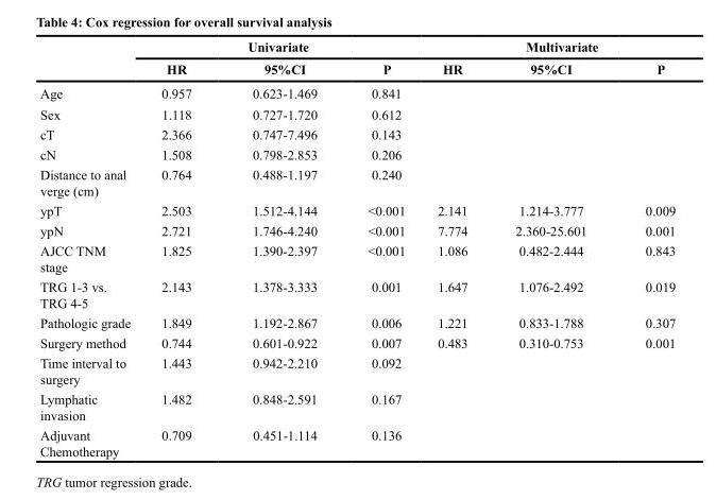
<table><thead><tr><td rowspan="2"></td><td colspan="3">Univariate</td><td colspan="3">Multivariate</td></tr><tr><td>HR</td><td>95%CI</td><td>P</td><td>HR</td><td>95%CI</td><td>P</td></tr></thead><tbody><tr><td>Age</td><td>0.957</td><td>0.623-1.469</td><td>0.841</td><td></td><td></td><td></td></tr><tr><td>Sex</td><td>1.118</td><td>0.727-1.720</td><td>0.612</td><td></td><td></td><td></td></tr><tr><td>cT</td><td>2.366</td><td>0.747-7.496</td><td>0.143</td><td></td><td></td><td></td></tr><tr><td>cN</td><td>1.508</td><td>0.798-2.853</td><td>0.206</td><td></td><td></td><td></td></tr><tr><td>Distance to anal verge (cm)</td><td>0.764</td><td>0.488-1.197</td><td>0.240</td><td></td><td></td><td></td></tr><tr><td>ypT</td><td>2.503</td><td>1.512-4.144</td><td>&lt;0.001</td><td>2.141</td><td>1.214-3.777</td><td>0.009</td></tr><tr><td>ypN</td><td>2.721</td><td>1.746-4.240</td><td>&lt;0.001</td><td>7.774</td><td>2.360-25.601</td><td>0.001</td></tr><tr><td>AJCC TNM stage</td><td>1.825</td><td>1.390-2.397</td><td>&lt;0.001</td><td>1.086</td><td>0.482-2.444</td><td>0.843</td></tr><tr><td>TRG 1-3 vs. TRG 4-5</td><td>2.143</td><td>1.378-3.333</td><td>0.001</td><td>1.647</td><td>1.076-2.492</td><td>0.019</td></tr><tr><td>Pathologic grade</td><td>1.849</td><td>1.192-2.867</td><td>0.006</td><td>1.221</td><td>0.833-1.788</td><td>0.307</td></tr><tr><td>Surgery method</td><td>0.744</td><td>0.601-0.922</td><td>0.007</td><td>0.483</td><td>0.310-0.753</td><td>0.001</td></tr><tr><td>Time interval to surgery</td><td>1.443</td><td>0.942-2.210</td><td>0.092</td><td></td><td></td><td></td></tr><tr><td>Lymphatic invasion</td><td>1.482</td><td>0.848-2.591</td><td>0.167</td><td></td><td></td><td></td></tr><tr><td>Adjuvant Chemotherapy</td><td>0.709</td><td>0.451-1.114</td><td>0.136</td><td></td><td></td><td></td></tr></tbody></table>